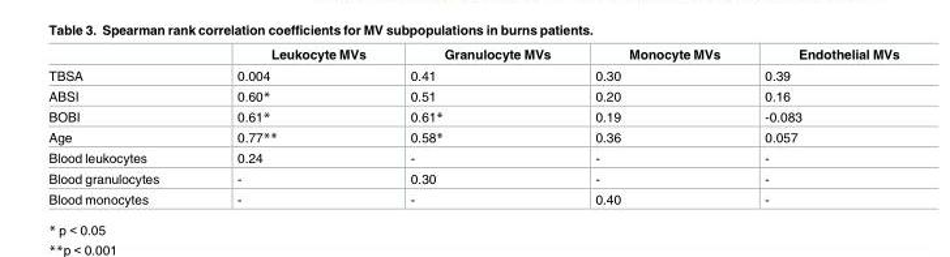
<table><thead><tr><td></td><td>Leukocyte MVs</td><td>Granulocyte MVs</td><td>Monocyte MVs</td><td>Endothelial MVs</td></tr></thead><tbody><tr><td>TBSA</td><td>0.004</td><td>0.41</td><td>0.30</td><td>0.39</td></tr><tr><td>ABSI</td><td>0.60*</td><td>0.51</td><td>0.20</td><td>0.16</td></tr><tr><td>BOBI</td><td>0.61*</td><td>0.61*</td><td>0.19</td><td>-0.083</td></tr><tr><td>Age</td><td>0.77**</td><td>0.58*</td><td>0.36</td><td>0.057</td></tr><tr><td>Blood leukocytes</td><td>0.24</td><td>-</td><td>-</td><td>-</td></tr><tr><td>Blood granulocytes</td><td>-</td><td>0.30</td><td>-</td><td>-</td></tr><tr><td>Blood monocytes</td><td>-</td><td>-</td><td>0.40</td><td>-</td></tr></tbody></table>